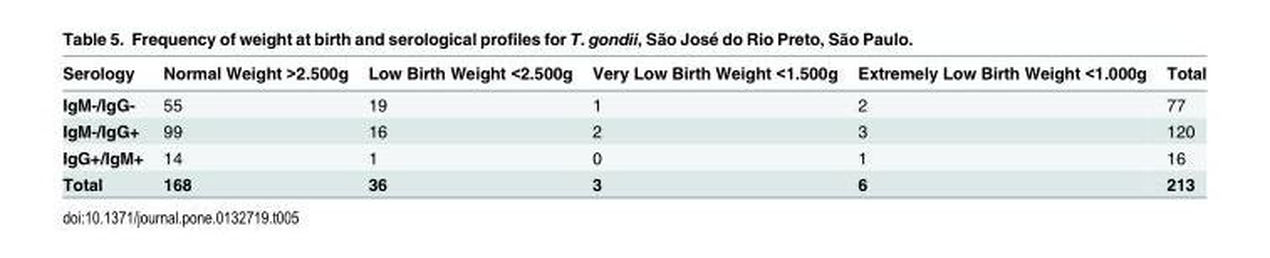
<table><thead><tr><td>Serology</td><td>Normal Weight &gt;2.500g</td><td>Low Birth Weight &lt;2.500g</td><td>Very Low Birth Weight &lt;1.500g</td><td>Extremely Low Birth Weight &lt;1.000g</td><td>Total</td></tr></thead><tbody><tr><td>IgM-/IgG-</td><td>55</td><td>19</td><td>1</td><td>2</td><td>77</td></tr><tr><td>IgM-/IgG+</td><td>99</td><td>16</td><td>2</td><td>3</td><td>120</td></tr><tr><td>IgG+/IgM+</td><td>14</td><td>1</td><td>0</td><td>1</td><td>16</td></tr><tr><td>Total</td><td>168</td><td>36</td><td>3</td><td>6</td><td>213</td></tr></tbody></table>